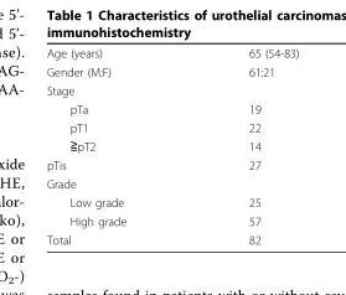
<table><tbody><tr><td>Age (years)</td><td>65 (54-83)</td></tr><tr><td>Gender (M:F)</td><td>61:21</td></tr><tr><td colspan="2">Stage</td></tr><tr><td>pTa</td><td>19</td></tr><tr><td>pT1</td><td>22</td></tr><tr><td>≧pT2</td><td>14</td></tr><tr><td>pTis</td><td>27</td></tr><tr><td colspan="2">Grade</td></tr><tr><td>Low grade</td><td>25</td></tr><tr><td>High grade</td><td>57</td></tr><tr><td>Total</td><td>82</td></tr></tbody></table>